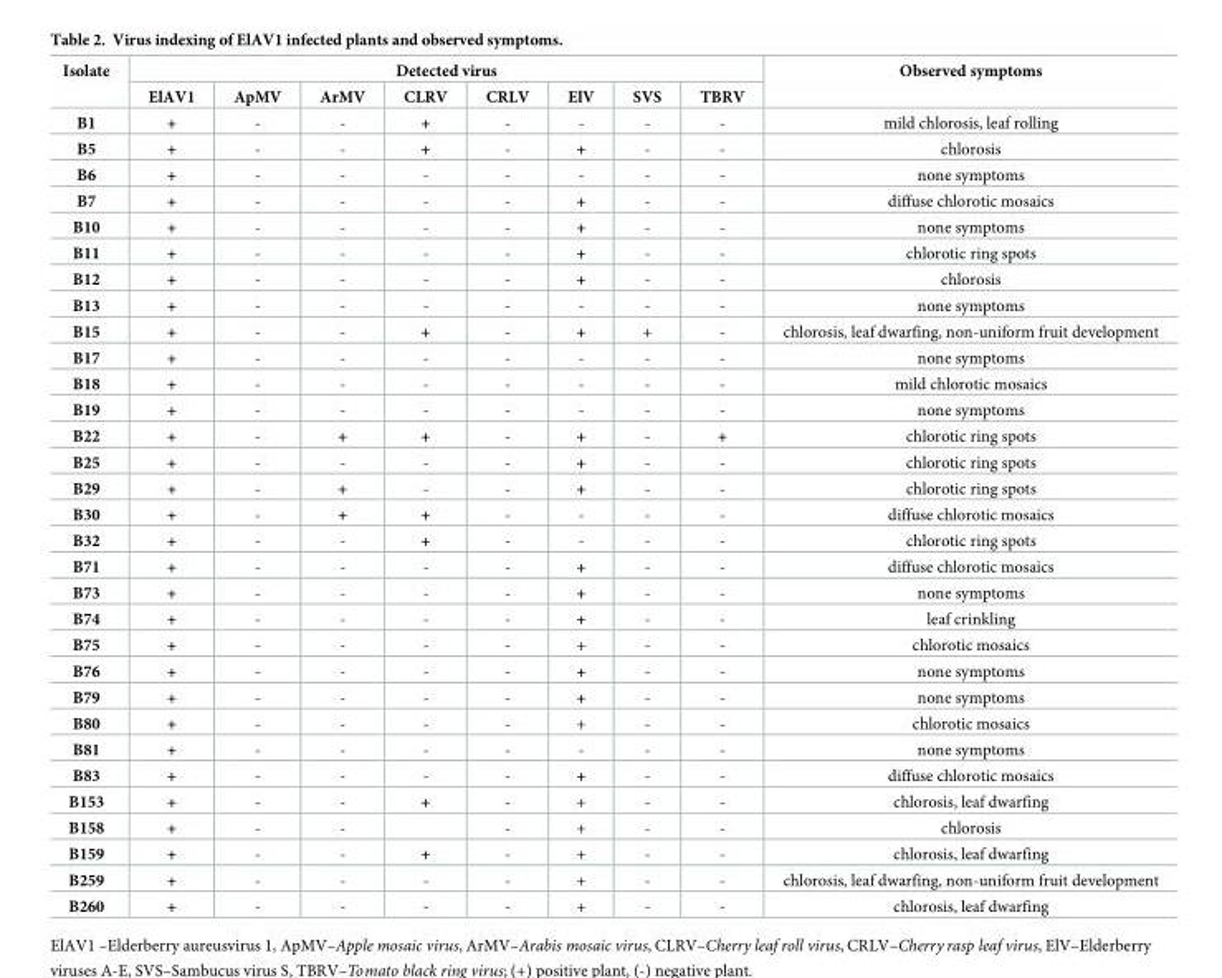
<table><thead><tr><td rowspan="2">Isolate</td><td colspan="8">Detected virus</td><td rowspan="2">Observed symptoms</td></tr><tr><td>ElAV1</td><td>ApMV</td><td>ArMV</td><td>CLRV</td><td>CRLV</td><td>ElV</td><td>SVS</td><td>TBRV</td></tr></thead><tbody><tr><td>B1</td><td>+</td><td>-</td><td>-</td><td>+</td><td>-</td><td>-</td><td>-</td><td>-</td><td>mild chlorosis, leaf rolling</td></tr><tr><td>B5</td><td>+</td><td>-</td><td>-</td><td>+</td><td>-</td><td>+</td><td>-</td><td>-</td><td>chlorosis</td></tr><tr><td>B6</td><td>+</td><td>-</td><td>-</td><td>-</td><td>-</td><td>-</td><td>-</td><td>-</td><td>none symptoms</td></tr><tr><td>B7</td><td>+</td><td>-</td><td>-</td><td>-</td><td>-</td><td>+</td><td>-</td><td>-</td><td>diffuse chlorotic mosaics</td></tr><tr><td>B10</td><td>+</td><td>-</td><td>-</td><td>-</td><td>-</td><td>+</td><td>-</td><td>-</td><td>none symptoms</td></tr><tr><td>B11</td><td>+</td><td>-</td><td>-</td><td>-</td><td>-</td><td>+</td><td>-</td><td>-</td><td>chlorotic ring spots</td></tr><tr><td>B12</td><td>+</td><td>-</td><td>-</td><td>-</td><td>-</td><td>+</td><td>-</td><td>-</td><td>chlorosis</td></tr><tr><td>B13</td><td>+</td><td>-</td><td>-</td><td>-</td><td>-</td><td>-</td><td>-</td><td>-</td><td>none symptoms</td></tr><tr><td>B15</td><td>+</td><td>-</td><td>-</td><td>+</td><td>-</td><td>+</td><td>+</td><td>-</td><td>chlorosis, leaf dwarfing, non-uniform fruit development</td></tr><tr><td>B17</td><td>+</td><td>-</td><td>-</td><td>-</td><td>-</td><td>-</td><td>-</td><td>-</td><td>none symptoms</td></tr><tr><td>B18</td><td>+</td><td>-</td><td>-</td><td>-</td><td>-</td><td>-</td><td>-</td><td>-</td><td>mild chlorotic mosaics</td></tr><tr><td>B19</td><td>+</td><td>-</td><td>-</td><td>-</td><td>-</td><td>-</td><td>-</td><td>-</td><td>none symptoms</td></tr><tr><td>B22</td><td>+</td><td>-</td><td>+</td><td>+</td><td>-</td><td>+</td><td>-</td><td>+</td><td>chlorotic ring spots</td></tr><tr><td>B25</td><td>+</td><td>-</td><td>-</td><td>-</td><td>-</td><td>+</td><td>-</td><td>-</td><td>chlorotic ring spots</td></tr><tr><td>B29</td><td>+</td><td>-</td><td>+</td><td>-</td><td>-</td><td>+</td><td>-</td><td>-</td><td>chlorotic ring spots</td></tr><tr><td>B30</td><td>+</td><td>-</td><td>+</td><td>+</td><td>-</td><td>-</td><td>-</td><td>-</td><td>diffuse chlorotic mosaics</td></tr><tr><td>B32</td><td>+</td><td>-</td><td>-</td><td>+</td><td>-</td><td>-</td><td>-</td><td>-</td><td>chlorotic ring spots</td></tr><tr><td>B71</td><td>+</td><td>-</td><td>-</td><td>-</td><td>-</td><td>+</td><td>-</td><td>-</td><td>diffuse chlorotic mosaics</td></tr><tr><td>B73</td><td>+</td><td>-</td><td>-</td><td>-</td><td>-</td><td>+</td><td>-</td><td>-</td><td>none symptoms</td></tr><tr><td>B74</td><td>+</td><td>-</td><td>-</td><td>-</td><td>-</td><td>+</td><td>-</td><td>-</td><td>leaf crinkling</td></tr><tr><td>B75</td><td>+</td><td>-</td><td>-</td><td>-</td><td>-</td><td>+</td><td>-</td><td>-</td><td>chlorotic mosaics</td></tr><tr><td>B76</td><td>+</td><td>-</td><td>-</td><td>-</td><td>-</td><td>+</td><td>-</td><td>-</td><td>none symptoms</td></tr><tr><td>B79</td><td>+</td><td>-</td><td>-</td><td>-</td><td>-</td><td>+</td><td>-</td><td>-</td><td>none symptoms</td></tr><tr><td>B80</td><td>+</td><td>-</td><td>-</td><td>-</td><td>-</td><td>+</td><td>-</td><td>-</td><td>chlorotic mosaics</td></tr><tr><td>B81</td><td>+</td><td>-</td><td>-</td><td>-</td><td>-</td><td>-</td><td>-</td><td>-</td><td>none symptoms</td></tr><tr><td>B83</td><td>+</td><td>-</td><td>-</td><td>-</td><td>-</td><td>+</td><td>-</td><td>-</td><td>diffuse chlorotic mosaics</td></tr><tr><td>B153</td><td>+</td><td>-</td><td>-</td><td>+</td><td>-</td><td>+</td><td>-</td><td>-</td><td>chlorosis, leaf dwarfing</td></tr><tr><td>B158</td><td>+</td><td>-</td><td>-</td><td></td><td>-</td><td>+</td><td>-</td><td>-</td><td>chlorosis</td></tr><tr><td>B159</td><td>+</td><td>-</td><td>-</td><td>+</td><td>-</td><td>+</td><td>-</td><td>-</td><td>chlorosis, leaf dwarfing</td></tr><tr><td>B259</td><td>+</td><td>-</td><td>-</td><td>-</td><td>-</td><td>+</td><td>-</td><td>-</td><td>chlorosis, leaf dwarfing, non-uniform fruit development</td></tr><tr><td>B260</td><td>+</td><td>-</td><td>-</td><td>-</td><td>-</td><td>+</td><td>-</td><td>-</td><td>chlorosis, leaf dwarfing</td></tr></tbody></table>